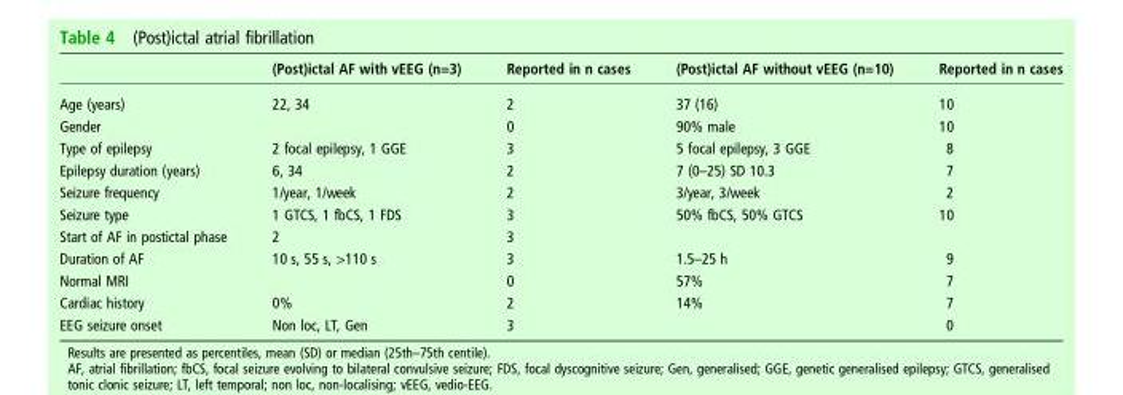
<table><thead><tr><td></td><td>(Post)ictal AF with vEEG (n=3)</td><td>Reported in n cases</td><td>(Post)ictal AF without vEEG (n=10)</td><td>Reported in n cases</td></tr></thead><tbody><tr><td>Age (years)</td><td>22, 34</td><td>2</td><td>37 (16)</td><td>10</td></tr><tr><td>Gender</td><td></td><td>0</td><td>90% male</td><td>10</td></tr><tr><td>Type of epilepsy</td><td>2 focal epilepsy, 1 GGE</td><td>3</td><td>5 focal epilepsy, 3 GGE</td><td>8</td></tr><tr><td>Epilepsy duration (years)</td><td>6, 34</td><td>2</td><td>7 (0–25) SD 10.3</td><td>7</td></tr><tr><td>Seizure frequency</td><td>1/year, 1/week</td><td>2</td><td>3/year, 3/week</td><td>2</td></tr><tr><td>Seizure type</td><td>1 GTCS, 1 fbCS, 1 FDS</td><td>3</td><td>50% fbCS, 50% GTCS</td><td>10</td></tr><tr><td>Start of AF in postictal phase</td><td>2</td><td>3</td><td></td><td></td></tr><tr><td>Duration of AF</td><td>10 s, 55 s, &gt;110 s</td><td>3</td><td>1.5–25 h</td><td>9</td></tr><tr><td>Normal MRI</td><td></td><td>0</td><td>57%</td><td>7</td></tr><tr><td>Cardiac history</td><td>0%</td><td>2</td><td>14%</td><td>7</td></tr><tr><td>EEG seizure onset</td><td>Non loc, LT, Gen</td><td>3</td><td></td><td>0</td></tr></tbody></table>